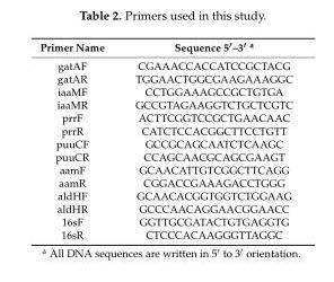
<table><thead><tr><td>Primer Name</td><td>Sequence 5′–3′ <sup>a</sup></td></tr></thead><tbody><tr><td>gatAF</td><td>CGAAACCACCATCCGCTACG</td></tr><tr><td>gatAR</td><td>TGGAACTGGCGAAGAAAGGC</td></tr><tr><td>iaaMF</td><td>CCTGGAAAGCCGCTGTGA</td></tr><tr><td>iaaMR</td><td>GCCGTAGAAGGTCTGCTCGTC</td></tr><tr><td>prrF</td><td>ACTTCGGTCCGCTGAACAAC</td></tr><tr><td>prrR</td><td>CATCTCCACGGCTTCCTGTT</td></tr><tr><td>puuCF</td><td>GCCGCAGCAATCTCAAGC</td></tr><tr><td>puuCR</td><td>CCAGCAACGCAGCGAAGT</td></tr><tr><td>aamF</td><td>GCAACATTGTCGGCTTCAGG</td></tr><tr><td>aamR</td><td>CGGACCGAAAGACCTGGG</td></tr><tr><td>aldHF</td><td>GCAACACGGTGGTCTGGAAG</td></tr><tr><td>aldHR</td><td>GCCCAACAGGAACGGAACC</td></tr><tr><td>16sF</td><td>GGTTGCGATACTGTGAGGTG</td></tr><tr><td>16sR</td><td>CTCCCACAAGGGTTAGGC</td></tr></tbody></table>